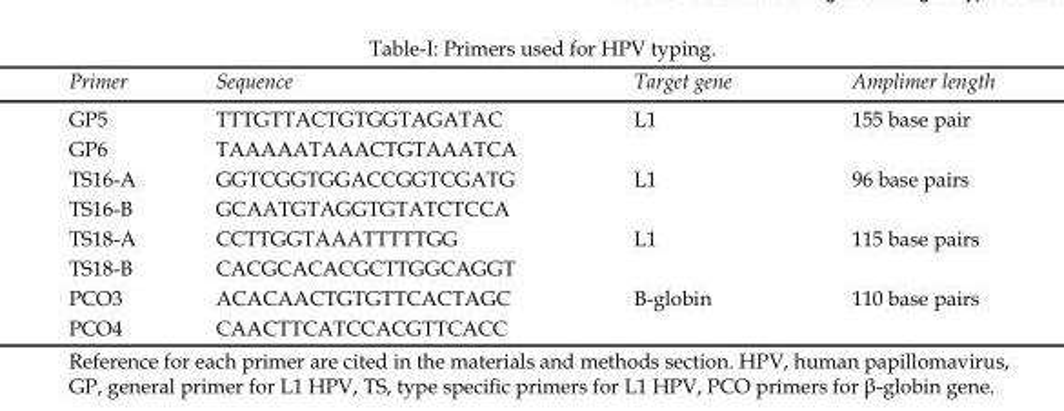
<table><thead><tr><td>Primer</td><td>Sequence</td><td>Target gene</td><td>Amplimer length</td></tr></thead><tbody><tr><td>GP5</td><td>TTTGTTACTGTGGTAGATAC</td><td>L1</td><td>155 base pair</td></tr><tr><td>GP6</td><td>TAAAAATAAACTGTAAATCA</td><td></td><td></td></tr><tr><td>TS16-A</td><td>GGTCGGTGGACCGGTCGATG</td><td>L1</td><td>96 base pairs</td></tr><tr><td>TS16-B</td><td>GCAATGTAGGTGTATCTCCA</td><td></td><td></td></tr><tr><td>TS18-A</td><td>CCTTGGTAAATTTTTGG</td><td>L1</td><td>115 base pairs</td></tr><tr><td>TS18-B</td><td>CACGCACACGCTTGGCAGGT</td><td></td><td></td></tr><tr><td>PCO3</td><td>ACACAACTGTGTTCACTAGC</td><td>Β-globin</td><td>110 base pairs</td></tr><tr><td>PCO4</td><td>CAACTTCATCCACGTTCACC</td><td></td><td></td></tr></tbody></table>